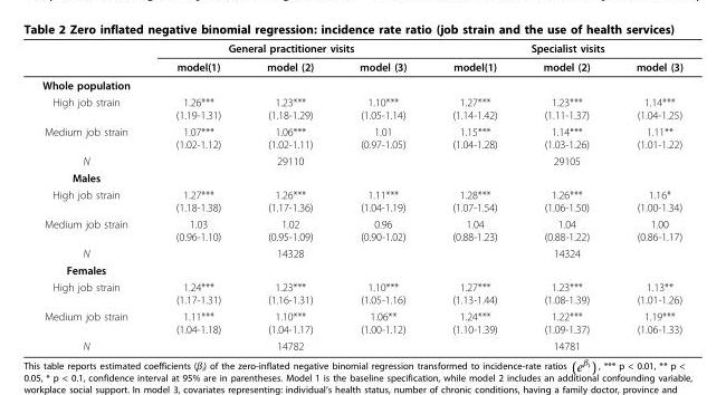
<table><thead><tr><td rowspan="2"></td><td colspan="3">General practitioner visits</td><td colspan="3">Specialist visits</td></tr><tr><td>model(1)</td><td>model (2)</td><td>model (3)</td><td>model(1)</td><td>model (2)</td><td>model (3)</td></tr></thead><tbody><tr><td colspan="7">Whole population</td></tr><tr><td>High job strain</td><td>1.26*** (1.19-1.31)</td><td>1.23*** (1.18-1.29)</td><td>1.10*** (1.05-1.14)</td><td>1.27*** (1.14-1.42)</td><td>1.23*** (1.11-1.37)</td><td>1.14*** (1.04-1.25)</td></tr><tr><td>Medium job strain</td><td>1.07*** (1.02-1.12)</td><td>1.06*** (1.02-1.11)</td><td>1.01 (0.97-1.05)</td><td>1.15*** (1.04-1.28)</td><td>1.14*** (1.03-1.26)</td><td>1.11** (1.01-1.22)</td></tr><tr><td>N</td><td></td><td>29110</td><td></td><td></td><td>29105</td><td></td></tr><tr><td colspan="7">Males</td></tr><tr><td>High job strain</td><td>1.27*** (1.18-1.38)</td><td>1.26*** (1.17-1.36)</td><td>1.11*** (1.04-1.19)</td><td>1.28*** (1.07-1.54)</td><td>1.26*** (1.06-1.50)</td><td>1.16* (1.00-1.34)</td></tr><tr><td>Medium job strain</td><td>1.03 (0.96-1.10)</td><td>1.02 (0.95-1.09)</td><td>0.96 (0.90-1.02)</td><td>1.04 (0.88-1.23)</td><td>1.04 (0.88-1.22)</td><td>1.00 (0.86-1.17)</td></tr><tr><td>N</td><td></td><td>14328</td><td></td><td></td><td>14324</td><td></td></tr><tr><td colspan="7">Females</td></tr><tr><td>High job strain</td><td>1.24*** (1.17-1.31)</td><td>1.23*** (1.16-1.31)</td><td>1.10*** (1.05-1.16)</td><td>1.27*** (1.13-1.44)</td><td>1.23*** (1.08-1.39)</td><td>1.13** (1.01-1.26)</td></tr><tr><td>Medium job strain</td><td>1.11*** (1.04-1.18)</td><td>1.10*** (1.04-1.17)</td><td>1.06** (1.00-1.12)</td><td>1.24*** (1.10-1.39)</td><td>1.22*** (1.09-1.37)</td><td>1.19*** (1.06-1.33)</td></tr><tr><td>N</td><td></td><td>14782</td><td></td><td></td><td>14781</td><td></td></tr></tbody></table>